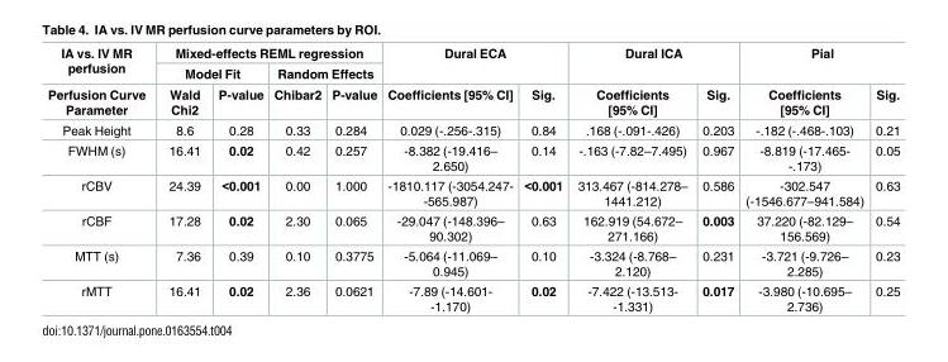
<table><thead><tr><td rowspan="3">IA vs. IV MR perfusion Perfusion Curve Parameter</td><td colspan="4">Mixed-effects REML regression</td><td rowspan="2" colspan="2">Dural ECA</td><td rowspan="2" colspan="2">Dural ICA</td><td rowspan="2" colspan="2">Pial</td></tr><tr><td colspan="2">Model Fit</td><td colspan="2">Random Effects</td></tr><tr><td>Wald Chi2</td><td>P-value</td><td>Chibar2</td><td>P-value</td><td>Coefficients [95% CI]</td><td>Sig.</td><td>Coefficients [95% CI]</td><td>Sig.</td><td>Coefficients [95% CI]</td><td>Sig.</td></tr></thead><tbody><tr><td>Peak Height</td><td>8.6</td><td>0.28</td><td>0.33</td><td>0.284</td><td>0.029 (-.256-.315)</td><td>0.84</td><td>.168 (-.091-.426)</td><td>0.203</td><td>-.182 (-.468-.103)</td><td>0.21</td></tr><tr><td>FWHM (s)</td><td>16.41</td><td>0.02</td><td>0.42</td><td>0.257</td><td>-8.382 (-19.416– 2.650)</td><td>0.14</td><td>-.163 (-7.82–7.495)</td><td>0.967</td><td>-8.819 (-17.465- -.173)</td><td>0.05</td></tr><tr><td>rCBV</td><td>24.39</td><td>&lt;0.001</td><td>0.00</td><td>1.000</td><td>-1810.117 (-3054.247- -565.987)</td><td>&lt;0.001</td><td>313.467 (-814.278– 1441.212)</td><td>0.586</td><td>-302.547 (-1546.677–941.584)</td><td>0.63</td></tr><tr><td>rCBF</td><td>17.28</td><td>0.02</td><td>2.30</td><td>0.065</td><td>-29.047 (-148.396– 90.302)</td><td>0.63</td><td>162.919 (54.672– 271.166)</td><td>0.003</td><td>37.220 (-82.129– 156.569)</td><td>0.54</td></tr><tr><td>MTT (s)</td><td>7.36</td><td>0.39</td><td>0.10</td><td>0.3775</td><td>-5.064 (-11.069– 0.945)</td><td>0.10</td><td>-3.324 (-8.768– 2.120)</td><td>0.231</td><td>-3.721 (-9.726– 2.285)</td><td>0.23</td></tr><tr><td>rMTT</td><td>16.41</td><td>0.02</td><td>2.36</td><td>0.0621</td><td>-7.89 (-14.601- -1.170)</td><td>0.02</td><td>-7.422 (-13.513- -1.331)</td><td>0.017</td><td>-3.980 (-10.695– 2.736)</td><td>0.25</td></tr></tbody></table>